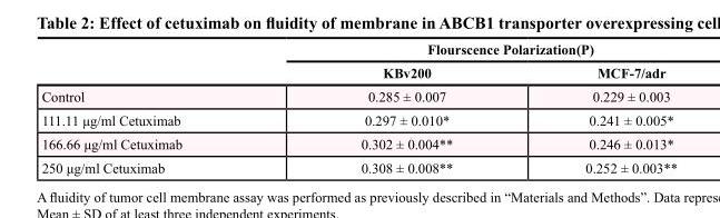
<table><thead><tr><td rowspan="2"></td><td colspan="2">Flourscence Polarization(P)</td></tr><tr><td>KBv200</td><td>MCF-7/adr</td></tr></thead><tbody><tr><td>Control</td><td>0.285 ± 0.007</td><td>0.229 ± 0.003</td></tr><tr><td>111.11 μg/ml Cetuximab</td><td>0.297 ± 0.010*</td><td>0.241 ± 0.005*</td></tr><tr><td>166.66 μg/ml Cetuximab</td><td>0.302 ± 0.004**</td><td>0.246 ± 0.013*</td></tr><tr><td>250 μg/ml Cetuximab</td><td>0.308 ± 0.008**</td><td>0.252 ± 0.003**</td></tr></tbody></table>